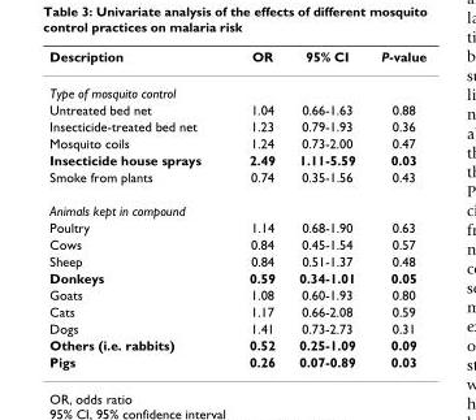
<table><thead><tr><td>Description</td><td>OR</td><td>95% CI</td><td>P-value</td></tr></thead><tbody><tr><td colspan="4">Type of mosquito control</td></tr><tr><td>Untreated bed net</td><td>1.04</td><td>0.66-1.63</td><td>0.88</td></tr><tr><td>Insecticide-treated bed net</td><td>1.23</td><td>0.79-1.93</td><td>0.36</td></tr><tr><td>Mosquito coils</td><td>1.24</td><td>0.73-2.00</td><td>0.47</td></tr><tr><td>Insecticide house sprays</td><td>2.49</td><td>1.11-5.59</td><td>0.03</td></tr><tr><td>Smoke from plants</td><td>0.74</td><td>0.35-1.56</td><td>0.43</td></tr><tr><td colspan="4">Animals kept in compound</td></tr><tr><td>Poultry</td><td>1.14</td><td>0.68-1.90</td><td>0.63</td></tr><tr><td>Cows</td><td>0.84</td><td>0.45-1.54</td><td>0.57</td></tr><tr><td>Sheep</td><td>0.84</td><td>0.51-1.37</td><td>0.48</td></tr><tr><td>Donkeys</td><td>0.59</td><td>0.34-1.01</td><td>0.05</td></tr><tr><td>Goats</td><td>1.08</td><td>0.60-1.93</td><td>0.80</td></tr><tr><td>Cats</td><td>1.17</td><td>0.66-2.08</td><td>0.59</td></tr><tr><td>Dogs</td><td>1.41</td><td>0.73-2.73</td><td>0.31</td></tr><tr><td>Others (i.e. rabbits)</td><td>0.52</td><td>0.25-1.09</td><td>0.09</td></tr><tr><td>Pigs</td><td>0.26</td><td>0.07-0.89</td><td>0.03</td></tr></tbody></table>